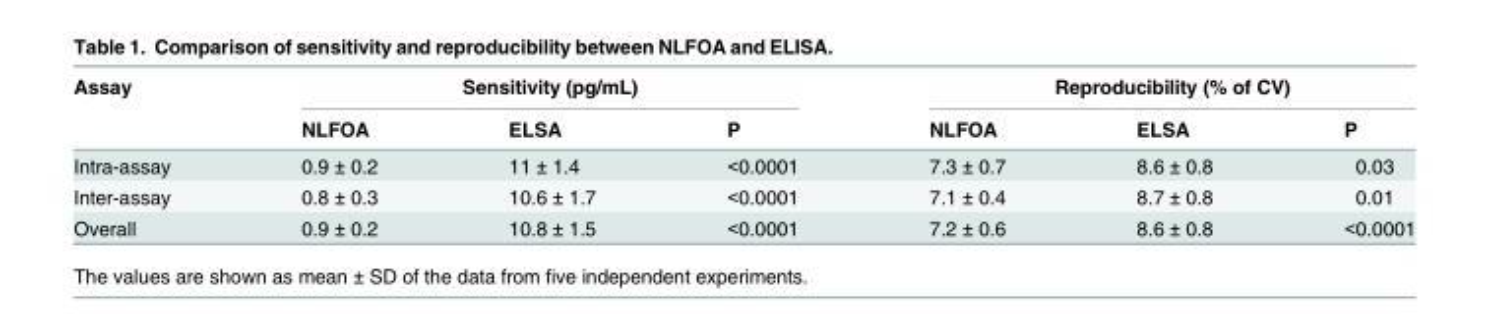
<table><thead><tr><td rowspan="2">Assay</td><td colspan="3">Sensitivity (pg/mL)</td><td colspan="3">Reproducibility (% of CV)</td></tr><tr><td>NLFOA</td><td>ELSA</td><td>P</td><td>NLFOA</td><td>ELSA</td><td>P</td></tr></thead><tbody><tr><td>Intra-assay</td><td>0.9 ± 0.2</td><td>11 ± 1.4</td><td>&lt;0.0001</td><td>7.3 ± 0.7</td><td>8.6 ± 0.8</td><td>0.03</td></tr><tr><td>Inter-assay</td><td>0.8 ± 0.3</td><td>10.6 ± 1.7</td><td>&lt;0.0001</td><td>7.1 ± 0.4</td><td>8.7 ± 0.8</td><td>0.01</td></tr><tr><td>Overall</td><td>0.9 ± 0.2</td><td>10.8 ± 1.5</td><td>&lt;0.0001</td><td>7.2 ± 0.6</td><td>8.6 ± 0.8</td><td>&lt;0.0001</td></tr></tbody></table>